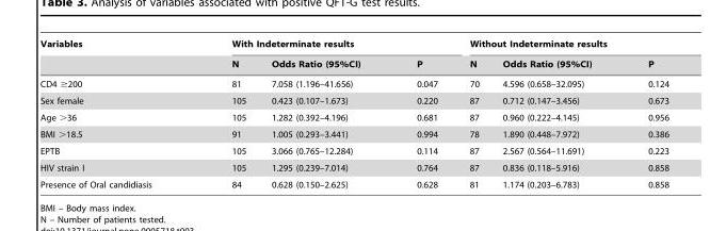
<table><thead><tr><td rowspan="2">Variables</td><td colspan="3">With Indeterminate results</td><td colspan="3">Without Indeterminate results</td></tr><tr><td>N</td><td>Odds Ratio (95%CI)</td><td>P</td><td>N</td><td>Odds Ratio (95%CI)</td><td>P</td></tr></thead><tbody><tr><td>CD4 ≥200</td><td>81</td><td>7.058 (1.196–41.656)</td><td>0.047</td><td>70</td><td>4.596 (0.658–32.095)</td><td>0.124</td></tr><tr><td>Sex female</td><td>105</td><td>0.423 (0.107–1.673)</td><td>0.220</td><td>87</td><td>0.712 (0.147–3.456)</td><td>0.673</td></tr><tr><td>Age &gt;36</td><td>105</td><td>1.282 (0.392–4.196)</td><td>0.681</td><td>87</td><td>0.960 (0.222–4.145)</td><td>0.956</td></tr><tr><td>BMI &gt;18.5</td><td>91</td><td>1.005 (0.293–3.441)</td><td>0.994</td><td>78</td><td>1.890 (0.448–7.972)</td><td>0.386</td></tr><tr><td>EPTB</td><td>105</td><td>3.066 (0.765–12.284)</td><td>0.114</td><td>87</td><td>2.567 (0.564–11.691)</td><td>0.223</td></tr><tr><td>HIV strain I</td><td>105</td><td>1.295 (0.239–7.014)</td><td>0.764</td><td>87</td><td>0.836 (0.118–5.916)</td><td>0.858</td></tr><tr><td>Presence of Oral candidiasis</td><td>84</td><td>0.628 (0.150–2.625)</td><td>0.628</td><td>81</td><td>1.174 (0.203–6.783)</td><td>0.858</td></tr></tbody></table>